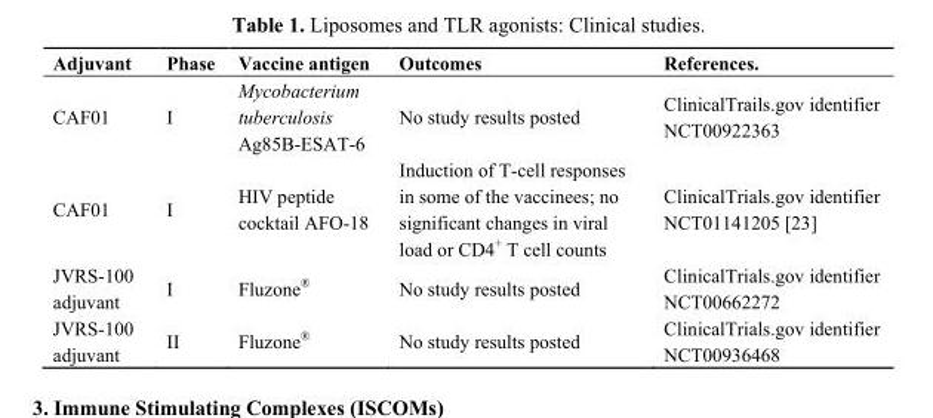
<table><thead><tr><td>Adjuvant</td><td>Phase</td><td>Vaccine antigen</td><td>Outcomes</td><td>References.</td></tr></thead><tbody><tr><td>CAF01</td><td>I</td><td>Mycobacterium tuberculosis Ag85B-ESAT-6</td><td>No study results posted</td><td>ClinicalTrails.gov identifier NCT00922363</td></tr><tr><td>CAF01</td><td>I</td><td>HIV peptide cocktail AFO-18</td><td>Induction of T-cell responses in some of the vaccinees; no significant changes in viral load or CD4<sup>+</sup> T cell counts</td><td>ClinicalTrials.gov identifier NCT01141205 [23]</td></tr><tr><td>JVRS-100 adjuvant</td><td>I</td><td>Fluzone<sup>®</sup></td><td>No study results posted</td><td>ClinicalTrials.gov identifier NCT00662272</td></tr><tr><td>JVRS-100 adjuvant</td><td>II</td><td>Fluzone<sup>®</sup></td><td>No study results posted</td><td>ClinicalTrials.gov identifier NCT00936468</td></tr></tbody></table>